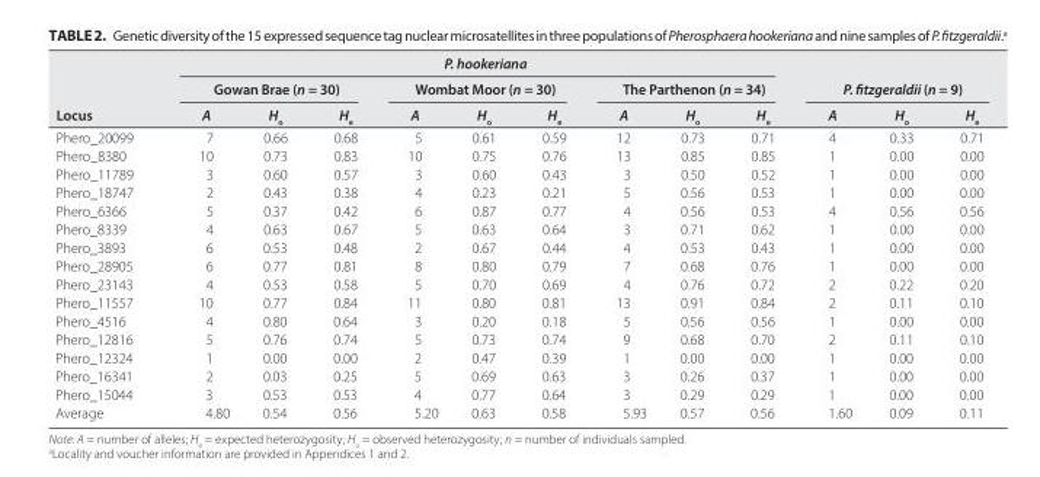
<table><thead><tr><td rowspan="3">Locus</td><td colspan="9">P. hookeriana</td><td rowspan="2" colspan="3">P. fitzgeraldii (n = 9)</td></tr><tr><td colspan="3">Gowan Brae (n = 30)</td><td colspan="3">Wombat Moor (n = 30)</td><td colspan="3">The Parthenon (n = 34)</td></tr><tr><td>A</td><td>H<sub>o</sub></td><td>H<sub>e</sub></td><td>A</td><td>H<sub>o</sub></td><td>H<sub>e</sub></td><td>A</td><td>H<sub>o</sub></td><td>H<sub>e</sub></td><td>A</td><td>H<sub>o</sub></td><td>H<sub>e</sub></td></tr></thead><tbody><tr><td>Phero_20099</td><td>7</td><td>0.66</td><td>0.68</td><td>5</td><td>0.61</td><td>0.59</td><td>12</td><td>0.73</td><td>0.71</td><td>4</td><td>0.33</td><td>0.71</td></tr><tr><td>Phero_8380</td><td>10</td><td>0.73</td><td>0.83</td><td>10</td><td>0.75</td><td>0.76</td><td>13</td><td>0.85</td><td>0.85</td><td>1</td><td>0.00</td><td>0.00</td></tr><tr><td>Phero_11789</td><td>3</td><td>0.60</td><td>0.57</td><td>3</td><td>0.60</td><td>0.43</td><td>3</td><td>0.50</td><td>0.52</td><td>1</td><td>0.00</td><td>0.00</td></tr><tr><td>Phero_18747</td><td>2</td><td>0.43</td><td>0.38</td><td>4</td><td>0.23</td><td>0.21</td><td>5</td><td>0.56</td><td>0.53</td><td>1</td><td>0.00</td><td>0.00</td></tr><tr><td>Phero_6366</td><td>5</td><td>0.37</td><td>0.42</td><td>6</td><td>0.87</td><td>0.77</td><td>4</td><td>0.56</td><td>0.53</td><td>4</td><td>0.56</td><td>0.56</td></tr><tr><td>Phero_8339</td><td>4</td><td>0.63</td><td>0.67</td><td>5</td><td>0.63</td><td>0.64</td><td>3</td><td>0.71</td><td>0.62</td><td>1</td><td>0.00</td><td>0.00</td></tr><tr><td>Phero_3893</td><td>6</td><td>0.53</td><td>0.48</td><td>2</td><td>0.67</td><td>0.44</td><td>4</td><td>0.53</td><td>0.43</td><td>1</td><td>0.00</td><td>0.00</td></tr><tr><td>Phero_28905</td><td>6</td><td>0.77</td><td>0.81</td><td>8</td><td>0.80</td><td>0.79</td><td>7</td><td>0.68</td><td>0.76</td><td>1</td><td>0.00</td><td>0.00</td></tr><tr><td>Phero_23143</td><td>4</td><td>0.53</td><td>0.58</td><td>5</td><td>0.70</td><td>0.69</td><td>4</td><td>0.76</td><td>0.72</td><td>2</td><td>0.22</td><td>0.20</td></tr><tr><td>Phero_11557</td><td>10</td><td>0.77</td><td>0.84</td><td>11</td><td>0.80</td><td>0.81</td><td>13</td><td>0.91</td><td>0.84</td><td>2</td><td>0.11</td><td>0.10</td></tr><tr><td>Phero_4516</td><td>4</td><td>0.80</td><td>0.64</td><td>3</td><td>0.20</td><td>0.18</td><td>5</td><td>0.56</td><td>0.56</td><td>1</td><td>0.00</td><td>0.00</td></tr><tr><td>Phero_12816</td><td>5</td><td>0.76</td><td>0.74</td><td>5</td><td>0.73</td><td>0.74</td><td>9</td><td>0.68</td><td>0.70</td><td>2</td><td>0.11</td><td>0.10</td></tr><tr><td>Phero_12324</td><td>1</td><td>0.00</td><td>0.00</td><td>2</td><td>0.47</td><td>0.39</td><td>1</td><td>0.00</td><td>0.00</td><td>1</td><td>0.00</td><td>0.00</td></tr><tr><td>Phero_16341</td><td>2</td><td>0.03</td><td>0.25</td><td>5</td><td>0.69</td><td>0.63</td><td>3</td><td>0.26</td><td>0.37</td><td>1</td><td>0.00</td><td>0.00</td></tr><tr><td>Phero_15044</td><td>3</td><td>0.53</td><td>0.53</td><td>4</td><td>0.77</td><td>0.64</td><td>3</td><td>0.29</td><td>0.29</td><td>1</td><td>0.00</td><td>0.00</td></tr><tr><td>Average</td><td>4.80</td><td>0.54</td><td>0.56</td><td>5.20</td><td>0.63</td><td>0.58</td><td>5.93</td><td>0.57</td><td>0.56</td><td>1.60</td><td>0.09</td><td>0.11</td></tr></tbody></table>